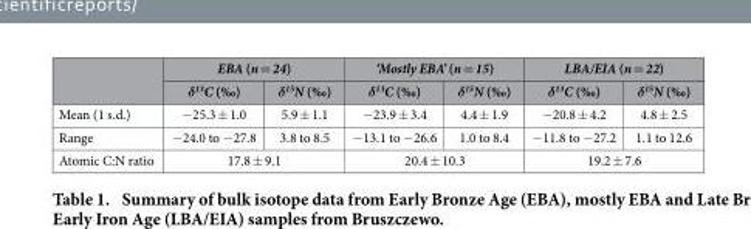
<table><thead><tr><td rowspan="2"></td><td colspan="2">EBA (n = 24)</td><td colspan="2">‘Mostly EBA’ (n = 15)</td><td colspan="2">LBA/EIA (n = 22)</td></tr><tr><td>δ<sup>13</sup>C (‰)</td><td>δ<sup>15</sup>N (‰)</td><td>δ<sup>13</sup>C (‰)</td><td>δ<sup>15</sup>N (‰)</td><td>δ<sup>13</sup>C (‰)</td><td>δ<sup>15</sup>N (‰)</td></tr></thead><tbody><tr><td>Mean (1 s.d.)</td><td>− 25.3 ± 1.0</td><td>5.9 ± 1.1</td><td>− 23.9 ± 3.4</td><td>4.4 ± 1.9</td><td>− 20.8 ± 4.2</td><td>4.8 ± 2.5</td></tr><tr><td>Range</td><td>− 24.0 to − 27.8</td><td>3.8 to 8.5</td><td>− 13.1 to − 26.6</td><td>1.0 to 8.4</td><td>− 11.8 to − 27.2</td><td>1.1 to 12.6</td></tr><tr><td>Atomic C:N ratio</td><td colspan="2">17.8 ± 9.1</td><td colspan="2">20.4 ± 10.3</td><td colspan="2">19.2 ± 7.6</td></tr></tbody></table>